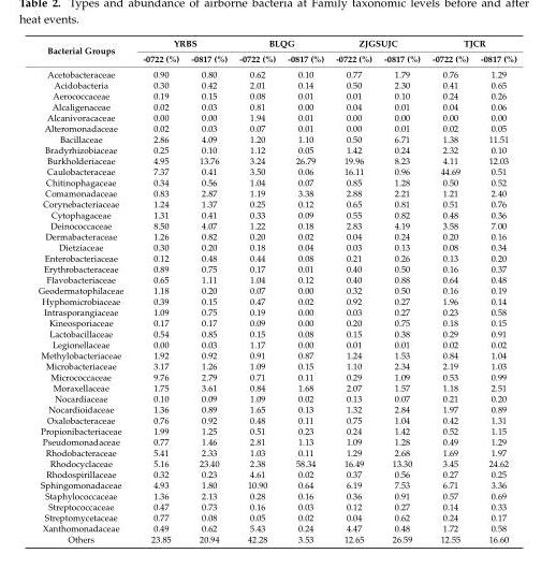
<table><thead><tr><td rowspan="2">Bacterial Groups</td><td colspan="2">YRBS</td><td colspan="2">BLQG</td><td colspan="2">ZJGSUJC</td><td colspan="2">TJCR</td></tr><tr><td>-0722 (%)</td><td>-0817 (%)</td><td>-0722 (%)</td><td>-0817 (%)</td><td>-0722 (%)</td><td>-0817 (%)</td><td>-0722 (%)</td><td>-0817 (%)</td></tr></thead><tbody><tr><td>Acetobacteraceae</td><td>0.90</td><td>0.80</td><td>0.62</td><td>0.10</td><td>0.77</td><td>1.79</td><td>0.76</td><td>1.29</td></tr><tr><td>Acidobacteria</td><td>0.30</td><td>0.42</td><td>2.01</td><td>0.14</td><td>0.50</td><td>2.30</td><td>0.41</td><td>0.65</td></tr><tr><td>Aerococcaceae</td><td>0.19</td><td>0.15</td><td>0.08</td><td>0.01</td><td>0.01</td><td>0.10</td><td>0.24</td><td>0.26</td></tr><tr><td>Alcaligenaceae</td><td>0.02</td><td>0.03</td><td>0.81</td><td>0.00</td><td>0.04</td><td>0.01</td><td>0.04</td><td>0.06</td></tr><tr><td>Alcanivoracaceae</td><td>0.00</td><td>0.00</td><td>1.94</td><td>0.01</td><td>0.00</td><td>0.00</td><td>0.00</td><td>0.00</td></tr><tr><td>Alteromonadaceae</td><td>0.02</td><td>0.03</td><td>0.07</td><td>0.01</td><td>0.00</td><td>0.01</td><td>0.02</td><td>0.05</td></tr><tr><td>Bacillaceae</td><td>2.86</td><td>4.09</td><td>1.20</td><td>1.10</td><td>0.50</td><td>6.71</td><td>1.38</td><td>11.51</td></tr><tr><td>Bradyrhizobiaceae</td><td>0.25</td><td>0.10</td><td>1.12</td><td>0.05</td><td>1.42</td><td>0.24</td><td>2.32</td><td>0.10</td></tr><tr><td>Burkholderiaceae</td><td>4.95</td><td>13.76</td><td>3.24</td><td>26.79</td><td>19.96</td><td>8.23</td><td>4.11</td><td>12.03</td></tr><tr><td>Caulobacteraceae</td><td>7.37</td><td>0.41</td><td>3.50</td><td>0.06</td><td>16.11</td><td>0.96</td><td>44.69</td><td>0.51</td></tr><tr><td>Chitinophagaceae</td><td>0.34</td><td>0.56</td><td>1.04</td><td>0.07</td><td>0.85</td><td>1.28</td><td>0.50</td><td>0.52</td></tr><tr><td>Comamonadaceae</td><td>0.83</td><td>2.87</td><td>1.19</td><td>3.38</td><td>2.88</td><td>2.21</td><td>1.21</td><td>2.40</td></tr><tr><td>Corynebacteriaceae</td><td>1.24</td><td>1.37</td><td>0.25</td><td>0.12</td><td>0.65</td><td>0.81</td><td>0.51</td><td>0.76</td></tr><tr><td>Cytophagaceae</td><td>1.31</td><td>0.41</td><td>0.33</td><td>0.09</td><td>0.55</td><td>0.82</td><td>0.48</td><td>0.36</td></tr><tr><td>Deinococcaceae</td><td>8.50</td><td>4.07</td><td>1.22</td><td>0.18</td><td>2.83</td><td>4.19</td><td>3.58</td><td>7.00</td></tr><tr><td>Dermabacteraceae</td><td>1.26</td><td>0.82</td><td>0.20</td><td>0.02</td><td>0.04</td><td>0.24</td><td>0.20</td><td>0.16</td></tr><tr><td>Dietziaceae</td><td>0.30</td><td>0.20</td><td>0.18</td><td>0.04</td><td>0.03</td><td>0.13</td><td>0.08</td><td>0.34</td></tr><tr><td>Enterobacteriaceae</td><td>0.12</td><td>0.48</td><td>0.44</td><td>0.08</td><td>0.21</td><td>0.26</td><td>0.13</td><td>0.20</td></tr><tr><td>Erythrobacteraceae</td><td>0.89</td><td>0.75</td><td>0.17</td><td>0.01</td><td>0.40</td><td>0.50</td><td>0.16</td><td>0.37</td></tr><tr><td>Flavobacteriaceae</td><td>0.65</td><td>1.11</td><td>1.04</td><td>0.12</td><td>0.40</td><td>0.88</td><td>0.64</td><td>0.48</td></tr><tr><td>Geodermatophilaceae</td><td>1.18</td><td>0.20</td><td>0.07</td><td>0.00</td><td>0.32</td><td>0.50</td><td>0.16</td><td>0.19</td></tr><tr><td>Hyphomicrobiaceae</td><td>0.39</td><td>0.15</td><td>0.47</td><td>0.02</td><td>0.92</td><td>0.27</td><td>1.96</td><td>0.14</td></tr><tr><td>Intrasporangiaceae</td><td>1.09</td><td>0.75</td><td>0.19</td><td>0.00</td><td>0.03</td><td>0.27</td><td>0.23</td><td>0.58</td></tr><tr><td>Kineosporiaceae</td><td>0.17</td><td>0.17</td><td>0.09</td><td>0.00</td><td>0.20</td><td>0.75</td><td>0.18</td><td>0.15</td></tr><tr><td>Lactobacillaceae</td><td>0.54</td><td>0.85</td><td>0.15</td><td>0.08</td><td>0.15</td><td>0.38</td><td>0.29</td><td>0.91</td></tr><tr><td>Legionellaceae</td><td>0.00</td><td>0.03</td><td>1.17</td><td>0.00</td><td>0.01</td><td>0.01</td><td>0.02</td><td>0.02</td></tr><tr><td>Methylobacteriaceae</td><td>1.92</td><td>0.92</td><td>0.91</td><td>0.87</td><td>1.24</td><td>1.53</td><td>0.84</td><td>1.04</td></tr><tr><td>Microbacteriaceae</td><td>3.17</td><td>1.26</td><td>1.09</td><td>0.15</td><td>1.10</td><td>2.34</td><td>2.19</td><td>1.03</td></tr><tr><td>Micrococcaceae</td><td>9.76</td><td>2.79</td><td>0.71</td><td>0.11</td><td>0.29</td><td>1.09</td><td>0.53</td><td>0.99</td></tr><tr><td>Moraxellaceae</td><td>1.75</td><td>3.61</td><td>0.84</td><td>1.68</td><td>2.07</td><td>1.57</td><td>1.18</td><td>2.51</td></tr><tr><td>Nocardiaceae</td><td>0.10</td><td>0.09</td><td>1.09</td><td>0.02</td><td>0.13</td><td>0.07</td><td>0.21</td><td>0.20</td></tr><tr><td>Nocardioidaceae</td><td>1.36</td><td>0.89</td><td>1.65</td><td>0.13</td><td>1.32</td><td>2.84</td><td>1.97</td><td>0.89</td></tr><tr><td>Oxalobacteraceae</td><td>0.76</td><td>0.92</td><td>0.48</td><td>0.11</td><td>0.75</td><td>1.04</td><td>0.42</td><td>1.31</td></tr><tr><td>Propionibacteriaceae</td><td>1.99</td><td>1.25</td><td>0.51</td><td>0.23</td><td>0.24</td><td>1.42</td><td>0.52</td><td>1.15</td></tr><tr><td>Pseudomonadaceae</td><td>0.77</td><td>1.46</td><td>2.81</td><td>1.13</td><td>1.09</td><td>1.28</td><td>0.49</td><td>1.29</td></tr><tr><td>Rhodobacteraceae</td><td>5.41</td><td>2.33</td><td>1.03</td><td>0.11</td><td>1.29</td><td>2.68</td><td>1.69</td><td>1.97</td></tr><tr><td>Rhodocyclaceae</td><td>5.16</td><td>23.40</td><td>2.38</td><td>58.34</td><td>16.49</td><td>13.30</td><td>3.45</td><td>24.62</td></tr><tr><td>Rhodospirillaceae</td><td>0.32</td><td>0.23</td><td>4.61</td><td>0.02</td><td>0.37</td><td>0.56</td><td>0.27</td><td>0.25</td></tr><tr><td>Sphingomonadaceae</td><td>4.93</td><td>1.80</td><td>10.90</td><td>0.64</td><td>6.19</td><td>7.53</td><td>6.71</td><td>3.36</td></tr><tr><td>Staphylococcaceae</td><td>1.36</td><td>2.13</td><td>0.28</td><td>0.16</td><td>0.36</td><td>0.91</td><td>0.57</td><td>0.69</td></tr><tr><td>Streptococcaceae</td><td>0.47</td><td>0.73</td><td>0.16</td><td>0.03</td><td>0.12</td><td>0.27</td><td>0.14</td><td>0.33</td></tr><tr><td>Streptomycetaceae</td><td>0.77</td><td>0.08</td><td>0.05</td><td>0.02</td><td>0.04</td><td>0.62</td><td>0.24</td><td>0.17</td></tr><tr><td>Xanthomonadaceae</td><td>0.49</td><td>0.62</td><td>5.43</td><td>0.24</td><td>4.47</td><td>0.48</td><td>1.72</td><td>0.58</td></tr><tr><td>Others</td><td>23.85</td><td>20.94</td><td>42.28</td><td>3.53</td><td>12.65</td><td>26.59</td><td>12.55</td><td>16.60</td></tr></tbody></table>